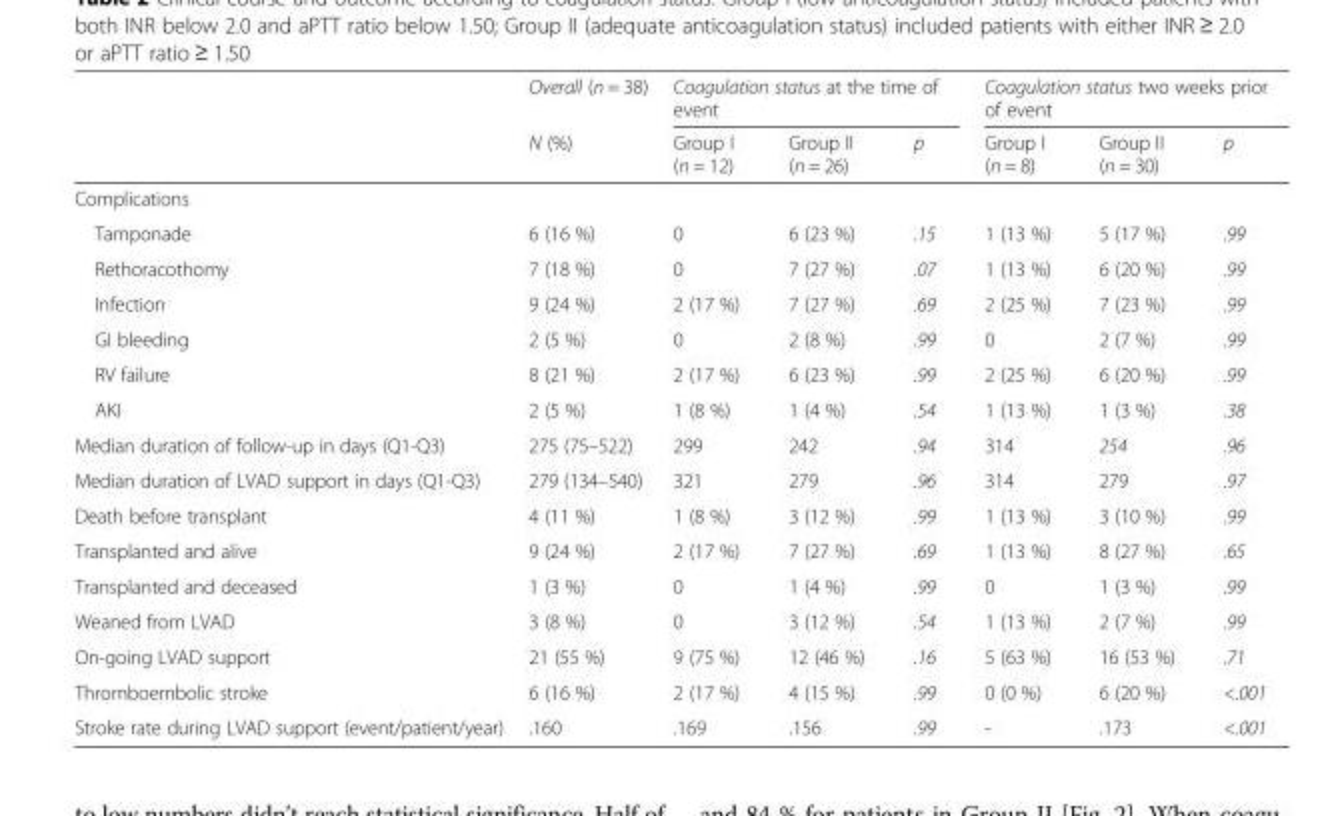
<table><thead><tr><td rowspan="2"></td><td rowspan="2">Overall (n = 38) N (%)</td><td colspan="3">Coagulation status at the time of event</td><td colspan="3">Coagulation status two weeks prior of event</td></tr><tr><td>Group I (n = 12)</td><td>Group II (n = 26)</td><td>p</td><td>Group I (n = 8)</td><td>Group II (n = 30)</td><td>p</td></tr></thead><tbody><tr><td colspan="8">Complications</td></tr><tr><td>Tamponade</td><td>6 (16 %)</td><td>0</td><td>6 (23 %)</td><td>.15</td><td>1 (13 %)</td><td>5 (17 %)</td><td>.99</td></tr><tr><td>Rethoracothomy</td><td>7 (18 %)</td><td>0</td><td>7 (27 %)</td><td>.07</td><td>1 (13 %)</td><td>6 (20 %)</td><td>.99</td></tr><tr><td>Infection</td><td>9 (24 %)</td><td>2 (17 %)</td><td>7 (27 %)</td><td>.69</td><td>2 (25 %)</td><td>7 (23 %)</td><td>.99</td></tr><tr><td>GI bleeding</td><td>2 (5 %)</td><td>0</td><td>2 (8 %)</td><td>.99</td><td>0</td><td>2 (7 %)</td><td>.99</td></tr><tr><td>RV failure</td><td>8 (21 %)</td><td>2 (17 %)</td><td>6 (23 %)</td><td>.99</td><td>2 (25 %)</td><td>6 (20 %)</td><td>.99</td></tr><tr><td>AKI</td><td>2 (5 %)</td><td>1 (8 %)</td><td>1 (4 %)</td><td>.54</td><td>1 (13 %)</td><td>1 (3 %)</td><td>.38</td></tr><tr><td>Median duration of follow-up in days (Q1-Q3)</td><td>275 (75–522)</td><td>299</td><td>242</td><td>.94</td><td>314</td><td>254</td><td>.96</td></tr><tr><td>Median duration of LVAD support in days (Q1-Q3)</td><td>279 (134–540)</td><td>321</td><td>279</td><td>.96</td><td>314</td><td>279</td><td>.97</td></tr><tr><td>Death before transplant</td><td>4 (11 %)</td><td>1 (8 %)</td><td>3 (12 %)</td><td>.99</td><td>1 (13 %)</td><td>3 (10 %)</td><td>.99</td></tr><tr><td>Transplanted and alive</td><td>9 (24 %)</td><td>2 (17 %)</td><td>7 (27 %)</td><td>.69</td><td>1 (13 %)</td><td>8 (27 %)</td><td>.65</td></tr><tr><td>Transplanted and deceased</td><td>1 (3 %)</td><td>0</td><td>1 (4 %)</td><td>.99</td><td>0</td><td>1 (3 %)</td><td>.99</td></tr><tr><td>Weaned from LVAD</td><td>3 (8 %)</td><td>0</td><td>3 (12 %)</td><td>.54</td><td>1 (13 %)</td><td>2 (7 %)</td><td>.99</td></tr><tr><td>On-going LVAD support</td><td>21 (55 %)</td><td>9 (75 %)</td><td>12 (46 %)</td><td>.16</td><td>5 (63 %)</td><td>16 (53 %)</td><td>.71</td></tr><tr><td>Thromboembolic stroke</td><td>6 (16 %)</td><td>2 (17 %)</td><td>4 (15 %)</td><td>.99</td><td>0 (0 %)</td><td>6 (20 %)</td><td>&lt;.001</td></tr><tr><td>Stroke rate during LVAD support (event/patient/year)</td><td>.160</td><td>.169</td><td>.156</td><td>.99</td><td>-</td><td>.173</td><td>&lt;.001</td></tr></tbody></table>